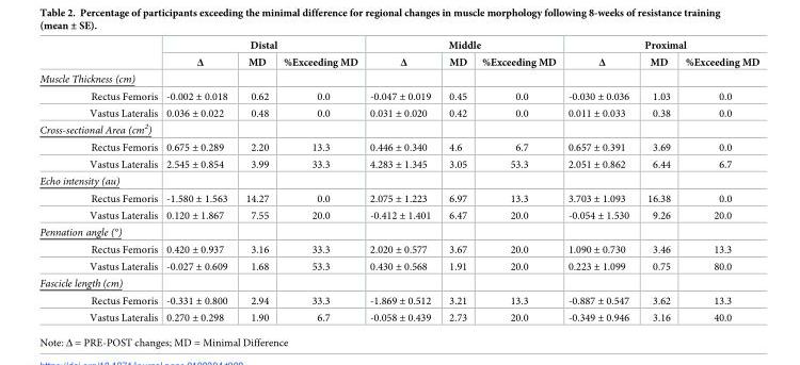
<table><thead><tr><td rowspan="2"></td><td colspan="3">Distal</td><td colspan="3">Middle</td><td colspan="3">Proximal</td></tr><tr><td>Δ</td><td>MD</td><td>%Exceeding MD</td><td>Δ</td><td>MD</td><td>%Exceeding MD</td><td>Δ</td><td>MD</td><td>%Exceeding MD</td></tr></thead><tbody><tr><td colspan="10">Muscle Thickness (cm)</td></tr><tr><td>Rectus Femoris</td><td>-0.002 ± 0.018</td><td>0.62</td><td>0.0</td><td>-0.047 ± 0.019</td><td>0.45</td><td>0.0</td><td>-0.030 ± 0.036</td><td>1.03</td><td>0.0</td></tr><tr><td>Vastus Lateralis</td><td>0.036 ± 0.022</td><td>0.48</td><td>0.0</td><td>0.031 ± 0.020</td><td>0.42</td><td>0.0</td><td>0.011 ± 0.033</td><td>0.38</td><td>0.0</td></tr><tr><td colspan="10">Cross-sectional Area (cm<sup>2</sup>)</td></tr><tr><td>Rectus Femoris</td><td>0.675 ± 0.289</td><td>2.20</td><td>13.3</td><td>0.446 ± 0.340</td><td>4.6</td><td>6.7</td><td>0.657 ± 0.391</td><td>3.69</td><td>0.0</td></tr><tr><td>Vastus Lateralis</td><td>2.545 ± 0.854</td><td>3.99</td><td>33.3</td><td>4.283 ± 1.345</td><td>3.05</td><td>53.3</td><td>2.051 ± 0.862</td><td>6.44</td><td>6.7</td></tr><tr><td colspan="10">Echo intensity (au)</td></tr><tr><td>Rectus Femoris</td><td>-1.580 ± 1.563</td><td>14.27</td><td>0.0</td><td>2.075 ± 1.223</td><td>6.97</td><td>13.3</td><td>3.703 ± 1.093</td><td>16.38</td><td>0.0</td></tr><tr><td>Vastus Lateralis</td><td>0.120 ± 1.867</td><td>7.55</td><td>20.0</td><td>-0.412 ± 1.401</td><td>6.47</td><td>20.0</td><td>-0.054 ± 1.530</td><td>9.26</td><td>20.0</td></tr><tr><td colspan="10">Pennation angle (°)</td></tr><tr><td>Rectus Femoris</td><td>0.420 ± 0.937</td><td>3.16</td><td>33.3</td><td>2.020 ± 0.577</td><td>3.67</td><td>20.0</td><td>1.090 ± 0.730</td><td>3.46</td><td>13.3</td></tr><tr><td>Vastus Lateralis</td><td>-0.027 ± 0.609</td><td>1.68</td><td>53.3</td><td>0.430 ± 0.568</td><td>1.91</td><td>20.0</td><td>0.223 ± 1.099</td><td>0.75</td><td>80.0</td></tr><tr><td colspan="10">Fascicle length (cm)</td></tr><tr><td>Rectus Femoris</td><td>-0.331 ± 0.800</td><td>2.94</td><td>33.3</td><td>-1.869 ± 0.512</td><td>3.21</td><td>13.3</td><td>-0.887 ± 0.547</td><td>3.62</td><td>13.3</td></tr><tr><td>Vastus Lateralis</td><td>0.270 ± 0.298</td><td>1.90</td><td>6.7</td><td>-0.058 ± 0.439</td><td>2.73</td><td>20.0</td><td>-0.349 ± 0.946</td><td>3.16</td><td>40.0</td></tr></tbody></table>